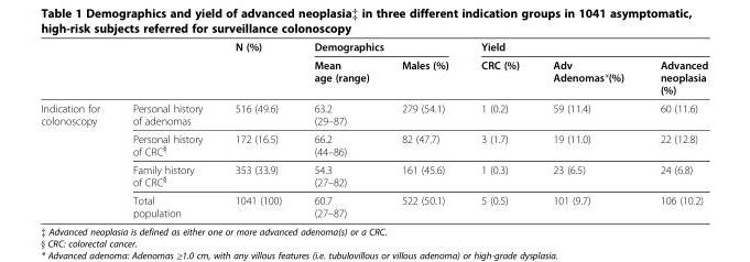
<table><thead><tr><td rowspan="2"></td><td rowspan="2"></td><td rowspan="2">N (%)</td><td colspan="2">Demographics</td><td colspan="3">Yield</td></tr><tr><td>Mean age (range)</td><td>Males (%)</td><td>CRC (%)</td><td>Adv Adenomas*(%)</td><td>Advanced neoplasia (%)</td></tr></thead><tbody><tr><td rowspan="4">Indication for colonoscopy</td><td>Personal history of adenomas</td><td>516 (49.6)</td><td>63.2 (29–87)</td><td>279 (54.1)</td><td>1 (0.2)</td><td>59 (11.4)</td><td>60 (11.6)</td></tr><tr><td>Personal history of CRC<sup>§</sup></td><td>172 (16.5)</td><td>66.2 (44–86)</td><td>82 (47.7)</td><td>3 (1.7)</td><td>19 (11.0)</td><td>22 (12.8)</td></tr><tr><td>Family history of CRC<sup>§</sup></td><td>353 (33.9)</td><td>54.3 (27–82)</td><td>161 (45.6)</td><td>1 (0.3)</td><td>23 (6.5)</td><td>24 (6.8)</td></tr><tr><td>Total population</td><td>1041 (100)</td><td>60.7 (27–87)</td><td>522 (50.1)</td><td>5 (0.5)</td><td>101 (9.7)</td><td>106 (10.2)</td></tr></tbody></table>